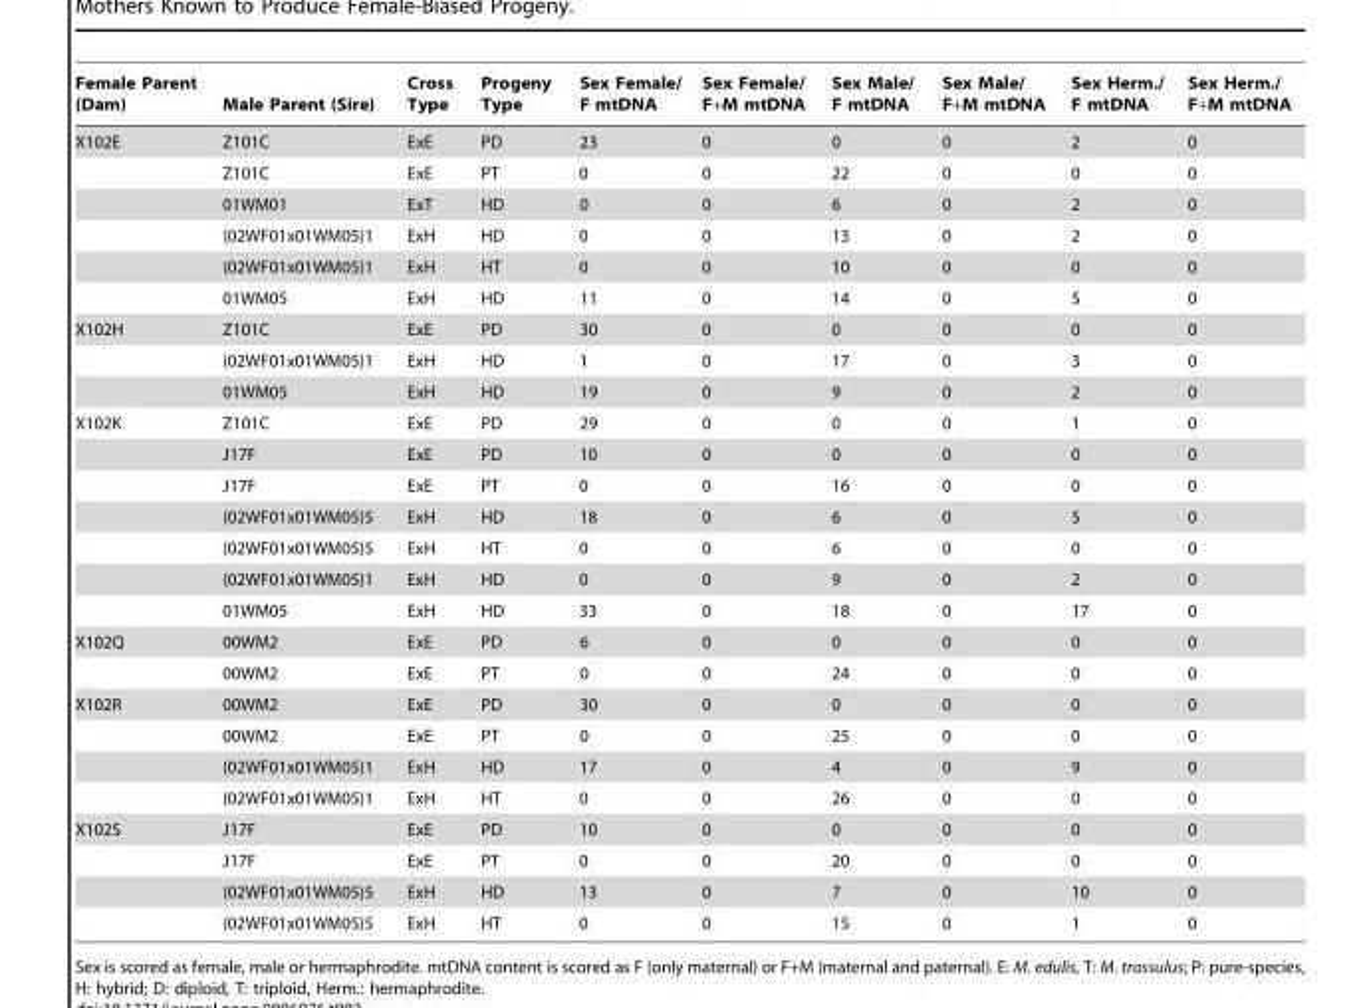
<table><thead><tr><td>Female Parent (Dam)</td><td>Male Parent (Sire)</td><td>Cross Type</td><td>Progeny Type</td><td>Sex Female/ F mtDNA</td><td>Sex Female/ F+M mtDNA</td><td>Sex Male/ F mtDNA</td><td>Sex Male/ F+M mtDNA</td><td>Sex Herm./ F mtDNA</td><td>Sex Herm./ F+M mtDNA</td></tr></thead><tbody><tr><td rowspan="6">X102E</td><td>Z101C</td><td>ExE</td><td>PD</td><td>23</td><td>0</td><td>0</td><td>0</td><td>2</td><td>0</td></tr><tr><td>Z101C</td><td>ExE</td><td>PT</td><td>0</td><td>0</td><td>22</td><td>0</td><td>0</td><td>0</td></tr><tr><td>01WM01</td><td>ExT</td><td>HD</td><td>0</td><td>0</td><td>6</td><td>0</td><td>2</td><td>0</td></tr><tr><td>(02WF01x01WM05)1</td><td>ExH</td><td>HD</td><td>0</td><td>0</td><td>13</td><td>0</td><td>2</td><td>0</td></tr><tr><td>(02WF01x01WM05)1</td><td>ExH</td><td>HT</td><td>0</td><td>0</td><td>10</td><td>0</td><td>0</td><td>0</td></tr><tr><td>01WM05</td><td>ExH</td><td>HD</td><td>11</td><td>0</td><td>14</td><td>0</td><td>5</td><td>0</td></tr><tr><td rowspan="3">X102H</td><td>Z101C</td><td>ExE</td><td>PD</td><td>30</td><td>0</td><td>0</td><td>0</td><td>0</td><td>0</td></tr><tr><td>(02WF01x01WM05)1</td><td>ExH</td><td>HD</td><td>1</td><td>0</td><td>17</td><td>0</td><td>3</td><td>0</td></tr><tr><td>01WM05</td><td>ExH</td><td>HD</td><td>19</td><td>0</td><td>9</td><td>0</td><td>2</td><td>0</td></tr><tr><td rowspan="7">X102K</td><td>Z101C</td><td>ExE</td><td>PD</td><td>29</td><td>0</td><td>0</td><td>0</td><td>1</td><td>0</td></tr><tr><td>J17F</td><td>ExE</td><td>PD</td><td>10</td><td>0</td><td>0</td><td>0</td><td>0</td><td>0</td></tr><tr><td>J17F</td><td>ExE</td><td>PT</td><td>0</td><td>0</td><td>16</td><td>0</td><td>0</td><td>0</td></tr><tr><td>(02WF01x01WM05)5</td><td>ExH</td><td>HD</td><td>18</td><td>0</td><td>6</td><td>0</td><td>5</td><td>0</td></tr><tr><td>(02WF01x01WM05)5</td><td>ExH</td><td>HT</td><td>0</td><td>0</td><td>6</td><td>0</td><td>0</td><td>0</td></tr><tr><td>(02WF01x01WM05)1</td><td>ExH</td><td>HD</td><td>0</td><td>0</td><td>9</td><td>0</td><td>2</td><td>0</td></tr><tr><td>01WM05</td><td>ExH</td><td>HD</td><td>33</td><td>0</td><td>18</td><td>0</td><td>17</td><td>0</td></tr><tr><td rowspan="2">X102Q</td><td>00WM2</td><td>ExE</td><td>PD</td><td>6</td><td>0</td><td>0</td><td>0</td><td>0</td><td>0</td></tr><tr><td>00WM2</td><td>ExE</td><td>PT</td><td>0</td><td>0</td><td>24</td><td>0</td><td>0</td><td>0</td></tr><tr><td rowspan="4">X102R</td><td>00WM2</td><td>ExE</td><td>PD</td><td>30</td><td>0</td><td>0</td><td>0</td><td>0</td><td>0</td></tr><tr><td>00WM2</td><td>ExE</td><td>PT</td><td>0</td><td>0</td><td>25</td><td>0</td><td>0</td><td>0</td></tr><tr><td>(02WF01x01WM05)1</td><td>ExH</td><td>HD</td><td>17</td><td>0</td><td>4</td><td>0</td><td>9</td><td>0</td></tr><tr><td>(02WF01x01WM05)1</td><td>ExH</td><td>HT</td><td>0</td><td>0</td><td>26</td><td>0</td><td>0</td><td>0</td></tr><tr><td rowspan="4">X102S</td><td>J17F</td><td>ExE</td><td>PD</td><td>10</td><td>0</td><td>0</td><td>0</td><td>0</td><td>0</td></tr><tr><td>J17F</td><td>ExE</td><td>PT</td><td>0</td><td>0</td><td>20</td><td>0</td><td>0</td><td>0</td></tr><tr><td>(02WF01x01WM05)5</td><td>ExH</td><td>HD</td><td>13</td><td>0</td><td>7</td><td>0</td><td>10</td><td>0</td></tr><tr><td>(02WF01x01WM05)5</td><td>ExH</td><td>HT</td><td>0</td><td>0</td><td>15</td><td>0</td><td>1</td><td>0</td></tr></tbody></table>